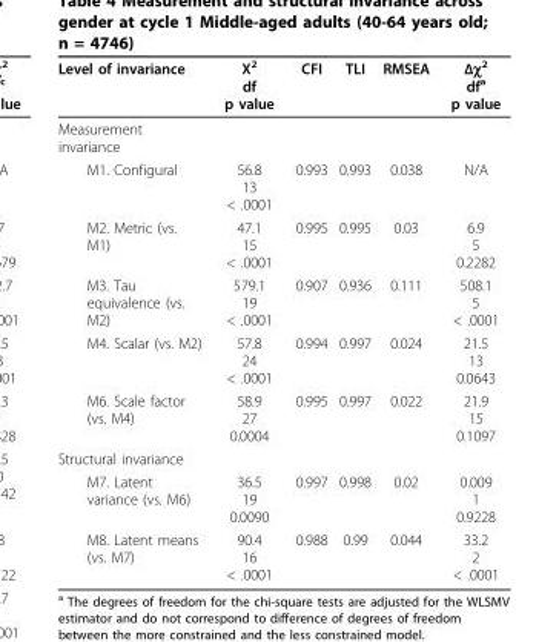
<table><thead><tr><td>Level of invariance</td><td>X<sup>2</sup> df p value</td><td>CFI</td><td>TLI</td><td>RMSEA</td><td>Δχ<sup>2</sup> df<sup>a</sup> p value</td></tr></thead><tbody><tr><td colspan="6">Measurement invariance</td></tr><tr><td>M1. Configural</td><td>56.8 13 &lt; .0001</td><td>0.993</td><td>0.993</td><td>0.038</td><td>N/A</td></tr><tr><td>M2. Metric (vs. M1)</td><td>47.1 15 &lt; .0001</td><td>0.995</td><td>0.995</td><td>0.03</td><td>6.9 5 0.2282</td></tr><tr><td>M3. Tau equivalence (vs. M2)</td><td>579.1 19 &lt; .0001</td><td>0.907</td><td>0.936</td><td>0.111</td><td>508.1 5 &lt; .0001</td></tr><tr><td>M4. Scalar (vs. M2)</td><td>57.8 24 &lt; .0001</td><td>0.994</td><td>0.997</td><td>0.024</td><td>21.5 13 0.0643</td></tr><tr><td>M6. Scale factor (vs. M4)</td><td>58.9 27 0.0004</td><td>0.995</td><td>0.997</td><td>0.022</td><td>21.9 15 0.1097</td></tr><tr><td colspan="6">Structural invariance</td></tr><tr><td>M7. Latent variance (vs. M6)</td><td>36.5 19 0.0090</td><td>0.997</td><td>0.998</td><td>0.02</td><td>0.009 1 0.9228</td></tr><tr><td>M8. Latent means (vs. M7)</td><td>90.4 16 &lt; .0001</td><td>0.988</td><td>0.99</td><td>0.044</td><td>33.2 2 &lt; .0001</td></tr></tbody></table>